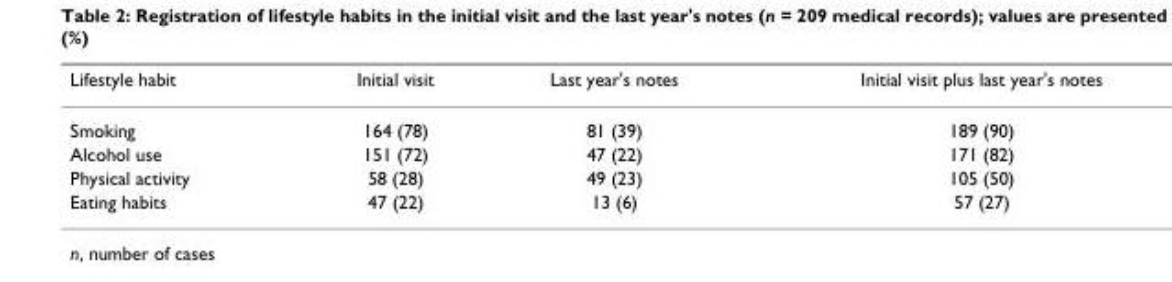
<table><thead><tr><td>Lifestyle habit</td><td>Initial visit</td><td>Last year&#x27;s notes</td><td>Initial visit plus last year&#x27;s notes</td></tr></thead><tbody><tr><td>Smoking</td><td>164 (78)</td><td>81 (39)</td><td>189 (90)</td></tr><tr><td>Alcohol use</td><td>151 (72)</td><td>47 (22)</td><td>171 (82)</td></tr><tr><td>Physical activity</td><td>58 (28)</td><td>49 (23)</td><td>105 (50)</td></tr><tr><td>Eating habits</td><td>47 (22)</td><td>13 (6)</td><td>57 (27)</td></tr></tbody></table>